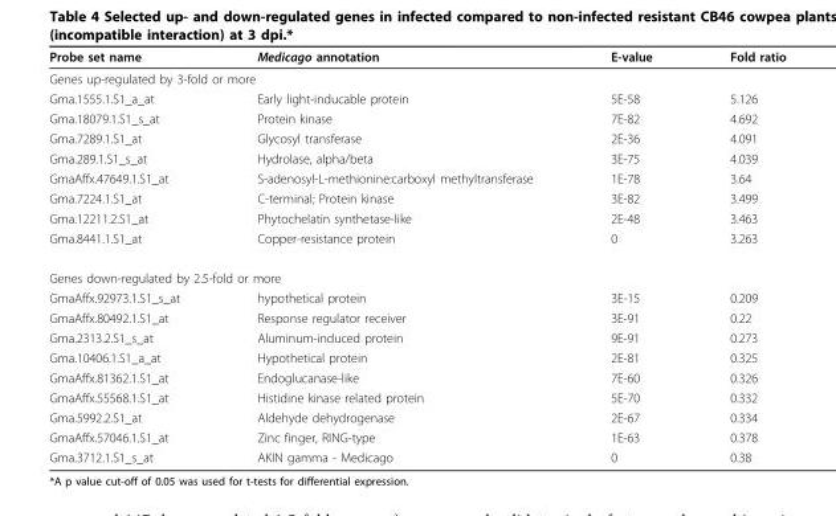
<table><thead><tr><td>Probe set name</td><td>Medicago annotation</td><td>E-value</td><td>Fold ratio</td></tr></thead><tbody><tr><td colspan="4">Genes up-regulated by 3-fold or more</td></tr><tr><td>Gma.1555.1.S1_a_at</td><td>Early light-inducable protein</td><td>5E-58</td><td>5.126</td></tr><tr><td>Gma.18079.1.S1_s_at</td><td>Protein kinase</td><td>7E-82</td><td>4.692</td></tr><tr><td>Gma.7289.1.S1_at</td><td>Glycosyl transferase</td><td>2E-36</td><td>4.091</td></tr><tr><td>Gma.289.1.S1_s_at</td><td>Hydrolase, alpha/beta</td><td>3E-75</td><td>4.039</td></tr><tr><td>GmaAffx.47649.1.S1_at</td><td>S-adenosyl-L-methionine:carboxyl methyltransferase</td><td>1E-78</td><td>3.64</td></tr><tr><td>Gma.7224.1.S1_at</td><td>C-terminal; Protein kinase</td><td>3E-82</td><td>3.499</td></tr><tr><td>Gma.12211.2.S1_at</td><td>Phytochelatin synthetase-like</td><td>2E-48</td><td>3.463</td></tr><tr><td>Gma.8441.1.S1_at</td><td>Copper-resistance protein</td><td>0</td><td>3.263</td></tr><tr><td colspan="4">Genes down-regulated by 2.5-fold or more</td></tr><tr><td>GmaAffx.92973.1.S1_s_at</td><td>hypothetical protein</td><td>3E-15</td><td>0.209</td></tr><tr><td>GmaAffx.80492.1.S1_at</td><td>Response regulator receiver</td><td>3E-91</td><td>0.22</td></tr><tr><td>Gma.2313.2.S1_s_at</td><td>Aluminum-induced protein</td><td>9E-91</td><td>0.273</td></tr><tr><td>Gma.10406.1.S1_a_at</td><td>Hypothetical protein</td><td>2E-81</td><td>0.325</td></tr><tr><td>GmaAffx.81362.1.S1_at</td><td>Endoglucanase-like</td><td>7E-60</td><td>0.326</td></tr><tr><td>GmaAffx.55568.1.S1_at</td><td>Histidine kinase related protein</td><td>5E-70</td><td>0.332</td></tr><tr><td>Gma.5992.2.S1_at</td><td>Aldehyde dehydrogenase</td><td>2E-67</td><td>0.334</td></tr><tr><td>GmaAffx.57046.1.S1_at</td><td>Zinc finger, RING-type</td><td>1E-63</td><td>0.378</td></tr><tr><td>Gma.3712.1.S1_s_at</td><td>AKIN gamma - Medicago</td><td>0</td><td>0.38</td></tr></tbody></table>